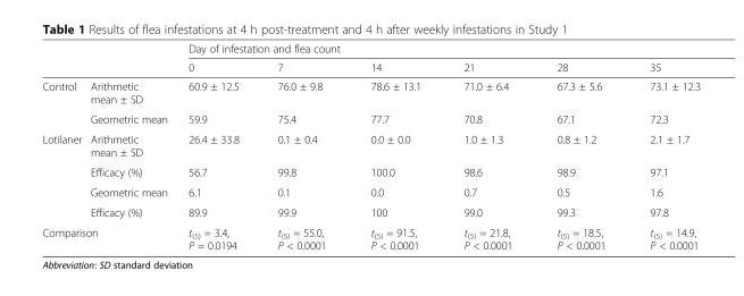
<table><thead><tr><td rowspan="2"></td><td rowspan="2"></td><td colspan="6">Day of infestation and flea count</td></tr><tr><td>0</td><td>7</td><td>14</td><td>21</td><td>28</td><td>35</td></tr></thead><tbody><tr><td rowspan="2">Control</td><td>Arithmetic mean ± SD</td><td>60.9 ± 12.5</td><td>76.0 ± 9.8</td><td>78.6 ± 13.1</td><td>71.0 ± 6.4</td><td>67.3 ± 5.6</td><td>73.1 ± 12.3</td></tr><tr><td>Geometric mean</td><td>59.9</td><td>75.4</td><td>77.7</td><td>70.8</td><td>67.1</td><td>72.3</td></tr><tr><td rowspan="4">Lotilaner</td><td>Arithmetic mean ± SD</td><td>26.4 ± 33.8</td><td>0.1 ± 0.4</td><td>0.0 ± 0.0</td><td>1.0 ± 1.3</td><td>0.8 ± 1.2</td><td>2.1 ± 1.7</td></tr><tr><td>Efficacy (%)</td><td>56.7</td><td>99.8</td><td>100.0</td><td>98.6</td><td>98.9</td><td>97.1</td></tr><tr><td>Geometric mean</td><td>6.1</td><td>0.1</td><td>0.0</td><td>0.7</td><td>0.5</td><td>1.6</td></tr><tr><td>Efficacy (%)</td><td>89.9</td><td>99.9</td><td>100</td><td>99.0</td><td>99.3</td><td>97.8</td></tr><tr><td colspan="2">Comparison</td><td>t<sub>(5)</sub> = 3.4, P = 0.0194</td><td>t<sub>(5)</sub> = 55.0, P &lt; 0.0001</td><td>t<sub>(5)</sub> = 91.5, P &lt; 0.0001</td><td>t<sub>(5)</sub> = 21.8, P &lt; 0.0001</td><td>t<sub>(5)</sub> = 18.5, P &lt; 0.0001</td><td>t<sub>(5)</sub> = 14.9, P &lt; 0.0001</td></tr></tbody></table>